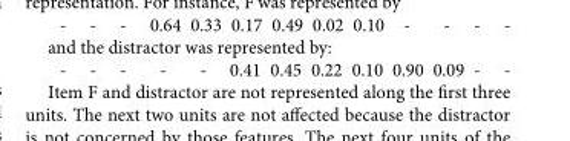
<table><tbody><tr><td>-</td><td>-</td><td>-</td><td>-</td><td>-</td><td>0.41</td><td>0.45</td><td>0.22</td><td>0.10</td><td>0.90</td><td>0.09</td><td>-</td><td>-</td></tr></tbody></table>